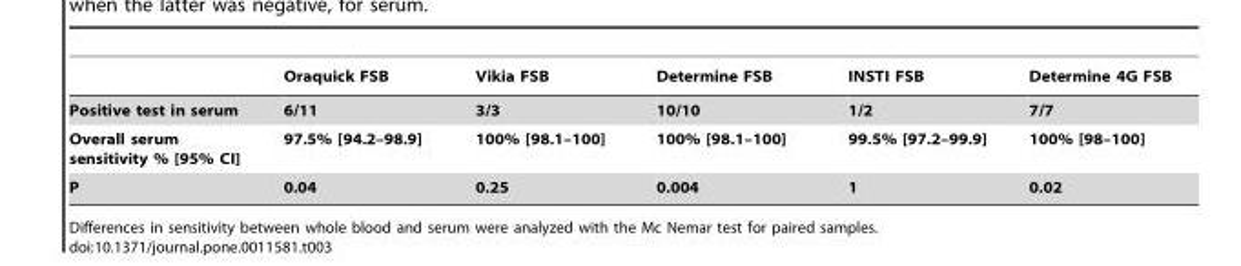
<table><thead><tr><td></td><td>Oraquick FSB</td><td>Vikia FSB</td><td>Determine FSB</td><td>INSTI FSB</td><td>Determine 4G FSB</td></tr></thead><tbody><tr><td>Positive test in serum</td><td>6/11</td><td>3/3</td><td>10/10</td><td>1/2</td><td>7/7</td></tr><tr><td>Overall serum sensitivity % [95% CI]</td><td>97.5% [94.2–98.9]</td><td>100% [98.1–100]</td><td>100% [98.1–100]</td><td>99.5% [97.2–99.9]</td><td>100% [98–100]</td></tr><tr><td>P</td><td>0.04</td><td>0.25</td><td>0.004</td><td>1</td><td>0.02</td></tr></tbody></table>